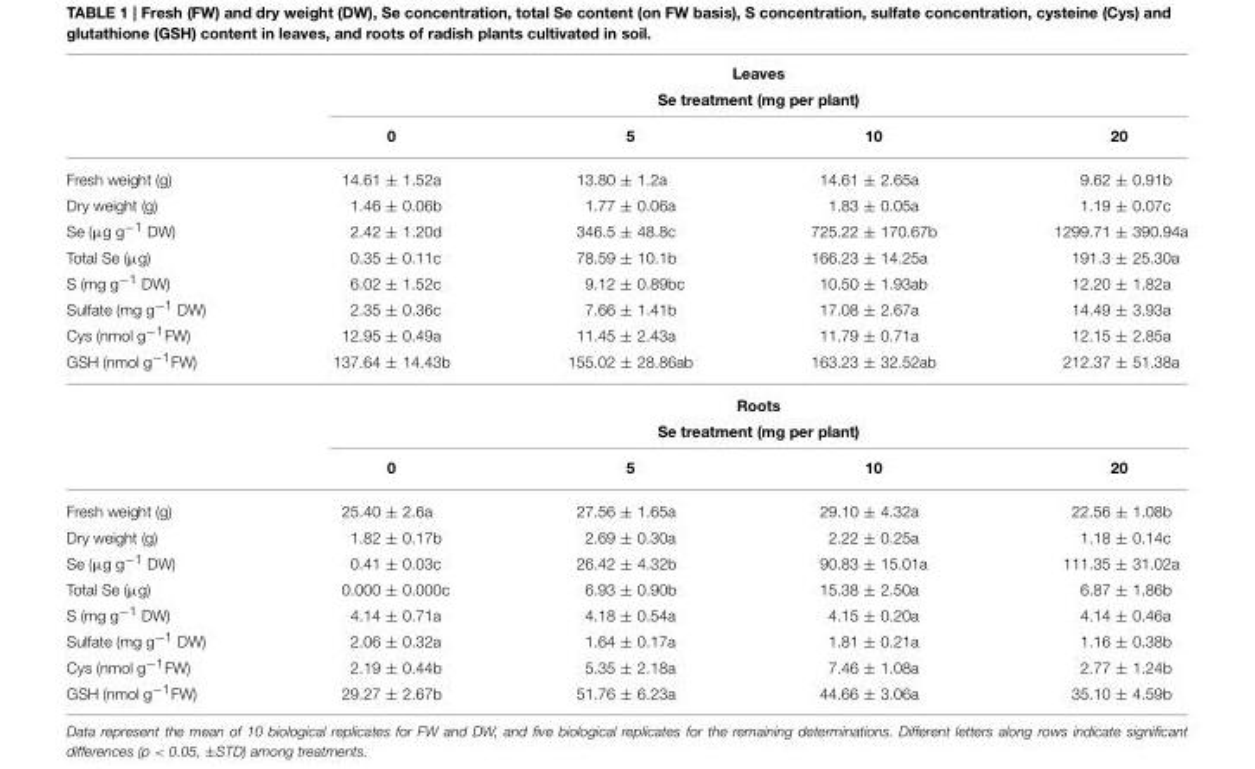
<table><thead><tr><td rowspan="3"></td><td rowspan="2" colspan="4">Leaves Se treatment (mg per plant)</td></tr><tr></tr><tr><td>0</td><td>5</td><td>10</td><td>20</td></tr></thead><tbody><tr><td>Fresh weight (g)</td><td>14.61 ± 1.52a</td><td>13.80 ± 1.2a</td><td>14.61 ± 2.65a</td><td>9.62 ± 0.91b</td></tr><tr><td>Dry weight (g)</td><td>1.46 ± 0.06b</td><td>1.77 ± 0.06a</td><td>1.83 ± 0.05a</td><td>1.19 ± 0.07c</td></tr><tr><td>Se (µg g<sup>−1</sup> DW)</td><td>2.42 ± 1.20d</td><td>346.5 ± 48.8c</td><td>725.22 ± 170.67b</td><td>1299.71 ± 390.94a</td></tr><tr><td>Total Se (µg)</td><td>0.35 ± 0.11c</td><td>78.59 ± 10.1b</td><td>166.23 ± 14.25a</td><td>191.3 ± 25.30a</td></tr><tr><td>S (mg g<sup>−1</sup> DW)</td><td>6.02 ± 1.52c</td><td>9.12 ± 0.89bc</td><td>10.50 ± 1.93ab</td><td>12.20 ± 1.82a</td></tr><tr><td>Sulfate (mg g<sup>−1</sup> DW)</td><td>2.35 ± 0.36c</td><td>7.66 ± 1.41b</td><td>17.08 ± 2.67a</td><td>14.49 ± 3.93a</td></tr><tr><td>Cys (nmol g<sup>−1</sup>FW)</td><td>12.95 ± 0.49a</td><td>11.45 ± 2.43a</td><td>11.79 ± 0.71a</td><td>12.15 ± 2.85a</td></tr><tr><td rowspan="4">GSH (nmol g<sup>−1</sup>FW)</td><td>137.64 ± 14.43b</td><td>155.02 ± 28.86ab</td><td>163.23 ± 32.52ab</td><td>212.37 ± 51.38a</td></tr><tr><td colspan="4">Roots</td></tr><tr><td colspan="4">Se treatment (mg per plant)</td></tr><tr><td>0</td><td>5</td><td>10</td><td>20</td></tr><tr><td>Fresh weight (g)</td><td>25.40 ± 2.6a</td><td>27.56 ± 1.65a</td><td>29.10 ± 4.32a</td><td>22.56 ± 1.08b</td></tr><tr><td>Dry weight (g)</td><td>1.82 ± 0.17b</td><td>2.69 ± 0.30a</td><td>2.22 ± 0.25a</td><td>1.18 ± 0.14c</td></tr><tr><td>Se (µg g<sup>−1</sup> DW)</td><td>0.41 ± 0.03c</td><td>26.42 ± 4.32b</td><td>90.83 ± 15.01a</td><td>111.35 ± 31.02a</td></tr><tr><td>Total Se (µg)</td><td>0.000 ± 0.000c</td><td>6.93 ± 0.90b</td><td>15.38 ± 2.50a</td><td>6.87 ± 1.86b</td></tr><tr><td>S (mg g<sup>−1</sup> DW)</td><td>4.14 ± 0.71a</td><td>4.18 ± 0.54a</td><td>4.15 ± 0.20a</td><td>4.14 ± 0.46a</td></tr><tr><td>Sulfate (mg g<sup>−1</sup> DW)</td><td>2.06 ± 0.32a</td><td>1.64 ± 0.17a</td><td>1.81 ± 0.21a</td><td>1.16 ± 0.38b</td></tr><tr><td>Cys (nmol g<sup>−1</sup>FW)</td><td>2.19 ± 0.44b</td><td>5.35 ± 2.18a</td><td>7.46 ± 1.08a</td><td>2.77 ± 1.24b</td></tr><tr><td>GSH (nmol g<sup>−1</sup>FW)</td><td>29.27 ± 2.67b</td><td>51.76 ± 6.23a</td><td>44.66 ± 3.06a</td><td>35.10 ± 4.59b</td></tr></tbody></table>